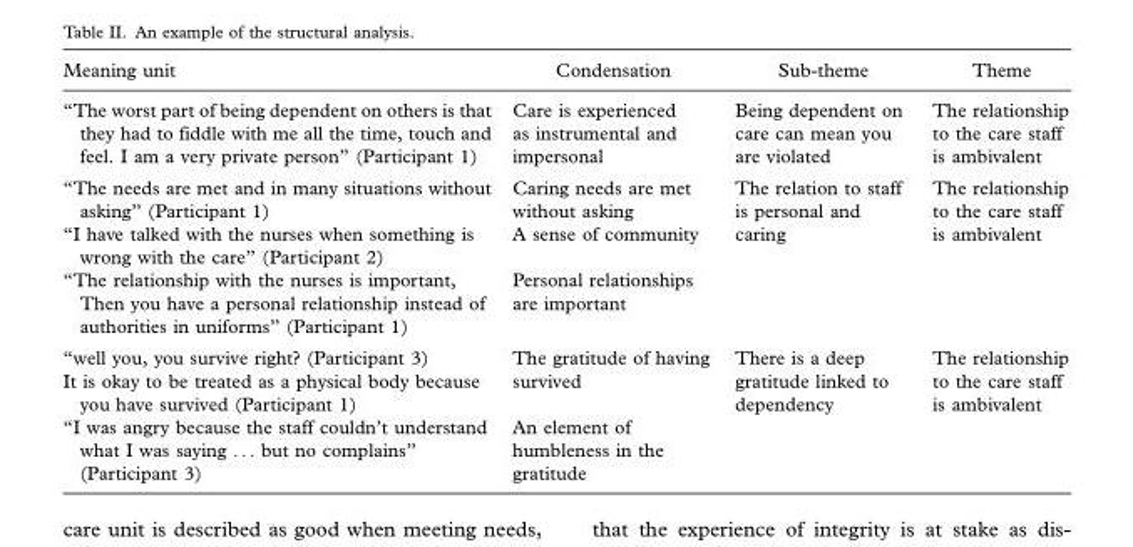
<table><thead><tr><td>Meaning unit</td><td>Condensation</td><td>Sub-theme</td><td>Theme</td></tr></thead><tbody><tr><td>‘‘The worst part of being dependent on others is that they had to fiddle with me all the time, touch and feel. I am a very private person’’ (Participant 1)</td><td>Care is experienced as instrumental and impersonal</td><td>Being dependent on care can mean you are violated</td><td>The relationship to the care staff is ambivalent</td></tr><tr><td>‘‘The needs are met and in many situations without asking’’ (Participant 1) ‘‘I have talked with the nurses when something is wrong with the care’’ (Participant 2) ‘‘The relationship with the nurses is important, Then you have a personal relationship instead of authorities in uniforms’’ (Participant 1)</td><td>Caring needs are met without asking A sense of community Personal relationships are important</td><td>The relation to staff is personal and caring</td><td>The relationship to the care staff is ambivalent</td></tr><tr><td>‘‘well you, you survive right? (Participant 3) It is okay to be treated as a physical body because you have survived (Participant 1) ‘‘I was angry because the staff couldn’t understand what I was saying . . . but no complains’’ (Participant 3)</td><td>The gratitude of having survived An element of humbleness in the gratitude</td><td>There is a deep gratitude linked to dependency</td><td>The relationship to the care staff is ambivalent</td></tr></tbody></table>